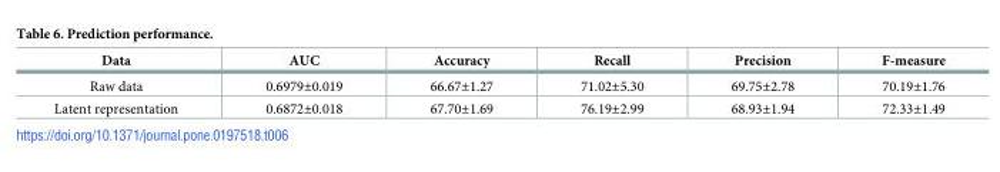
<table><thead><tr><td>Data</td><td>AUC</td><td>Accuracy</td><td>Recall</td><td>Precision</td><td>F-measure</td></tr></thead><tbody><tr><td>Raw data</td><td>0.6979±0.019</td><td>66.67±1.27</td><td>71.02±5.30</td><td>69.75±2.78</td><td>70.19±1.76</td></tr><tr><td>Latent representation</td><td>0.6872±0.018</td><td>67.70±1.69</td><td>76.19±2.99</td><td>68.93±1.94</td><td>72.33±1.49</td></tr></tbody></table>